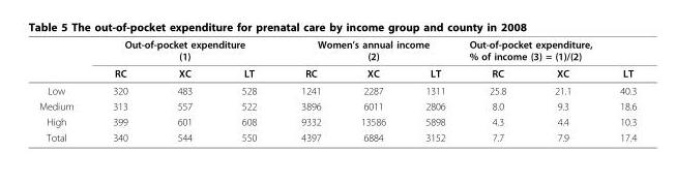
<table><thead><tr><td rowspan="2"></td><td colspan="3">Out-of-pocket expenditure (1)</td><td colspan="3">Women’s annual income (2)</td><td colspan="3">Out-of-pocket expenditure, % of income (3) = (1)/(2)</td></tr><tr><td>RC</td><td>XC</td><td>LT</td><td>RC</td><td>XC</td><td>LT</td><td>RC</td><td>XC</td><td>LT</td></tr></thead><tbody><tr><td>Low</td><td>320</td><td>483</td><td>528</td><td>1241</td><td>2287</td><td>1311</td><td>25.8</td><td>21.1</td><td>40.3</td></tr><tr><td>Medium</td><td>313</td><td>557</td><td>522</td><td>3896</td><td>6011</td><td>2806</td><td>8.0</td><td>9.3</td><td>18.6</td></tr><tr><td>High</td><td>399</td><td>601</td><td>608</td><td>9332</td><td>13586</td><td>5898</td><td>4.3</td><td>4.4</td><td>10.3</td></tr><tr><td>Total</td><td>340</td><td>544</td><td>550</td><td>4397</td><td>6884</td><td>3152</td><td>7.7</td><td>7.9</td><td>17.4</td></tr></tbody></table>